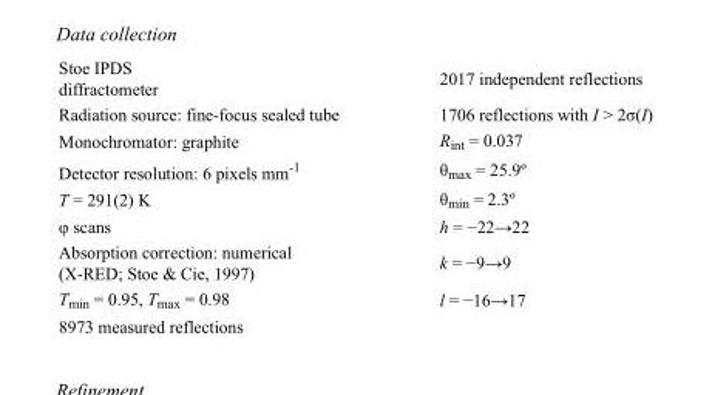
<table><tbody><tr><td>Stoe IPDS diffractometer</td><td>2017 independent reflections</td></tr><tr><td>Radiation source: fine-focus sealed tube</td><td>1706 reflections with I &gt; 2σ(I)</td></tr><tr><td>Monochromator: graphite</td><td>R<sub>int</sub> = 0.037</td></tr><tr><td>Detector resolution: 6 pixels mm<sup>-1</sup></td><td>θ<sub>max</sub> = 25.9º</td></tr><tr><td>T = 291(2) K</td><td>θ<sub>min</sub> = 2.3º</td></tr><tr><td>φ scans</td><td>h = −22→22</td></tr><tr><td>Absorption correction: numerical (X-RED; Stoe &amp; Cie, 1997)</td><td>k = −9→9</td></tr><tr><td>T<sub>min</sub> = 0.95, T<sub>max</sub> = 0.98</td><td>l = −16→17</td></tr><tr><td>8973 measured reflections</td><td></td></tr></tbody></table>